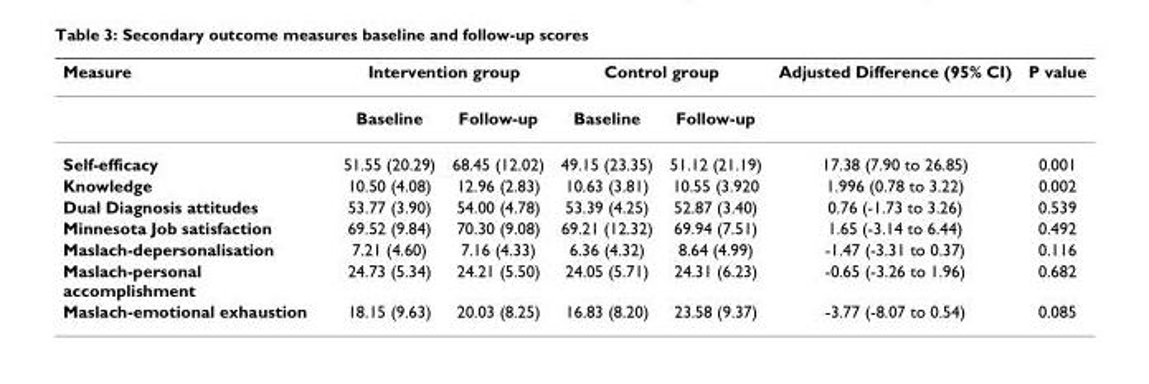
<table><thead><tr><td rowspan="2">Measure</td><td colspan="2">Intervention group</td><td colspan="2">Control group</td><td rowspan="2">Adjusted Difference (95% CI)</td><td rowspan="2">P value</td></tr><tr><td>Baseline</td><td>Follow-up</td><td>Baseline</td><td>Follow-up</td></tr></thead><tbody><tr><td>Self-efficacy</td><td>51.55 (20.29)</td><td>68.45 (12.02)</td><td>49.15 (23.35)</td><td>51.12 (21.19)</td><td>17.38 (7.90 to 26.85)</td><td>0.001</td></tr><tr><td>Knowledge</td><td>10.50 (4.08)</td><td>12.96 (2.83)</td><td>10.63 (3.81)</td><td>10.55 (3.920</td><td>1.996 (0.78 to 3.22)</td><td>0.002</td></tr><tr><td>Dual Diagnosis attitudes</td><td>53.77 (3.90)</td><td>54.00 (4.78)</td><td>53.39 (4.25)</td><td>52.87 (3.40)</td><td>0.76 (-1.73 to 3.26)</td><td>0.539</td></tr><tr><td>Minnesota Job satisfaction</td><td>69.52 (9.84)</td><td>70.30 (9.08)</td><td>69.21 (12.32)</td><td>69.94 (7.51)</td><td>1.65 (-3.14 to 6.44)</td><td>0.492</td></tr><tr><td>Maslach-depersonalisation</td><td>7.21 (4.60)</td><td>7.16 (4.33)</td><td>6.36 (4.32)</td><td>8.64 (4.99)</td><td>-1.47 (-3.31 to 0.37)</td><td>0.116</td></tr><tr><td>Maslach-personal accomplishment</td><td>24.73 (5.34)</td><td>24.21 (5.50)</td><td>24.05 (5.71)</td><td>24.31 (6.23)</td><td>-0.65 (-3.26 to 1.96)</td><td>0.682</td></tr><tr><td>Maslach-emotional exhaustion</td><td>18.15 (9.63)</td><td>20.03 (8.25)</td><td>16.83 (8.20)</td><td>23.58 (9.37)</td><td>-3.77 (-8.07 to 0.54)</td><td>0.085</td></tr></tbody></table>